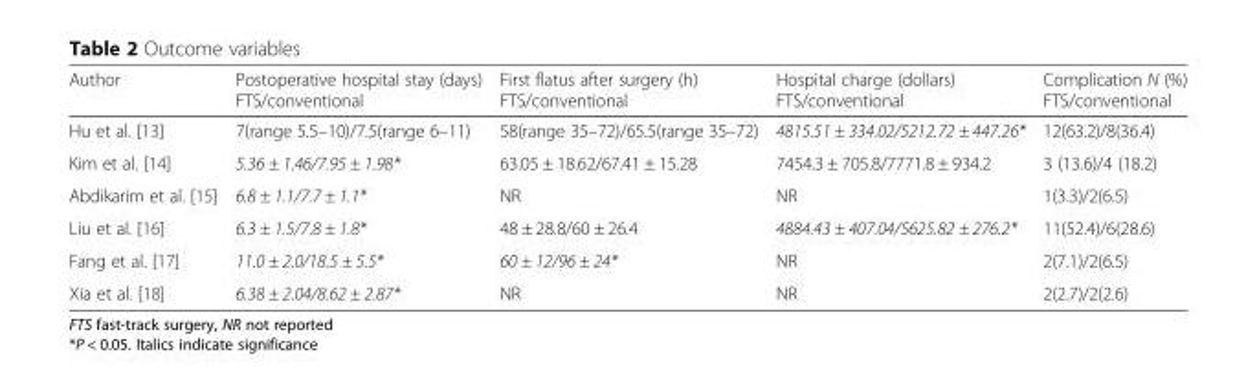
<table><thead><tr><td>Author</td><td>Postoperative hospital stay (days) FTS/conventional</td><td>First flatus after surgery (h) FTS/conventional</td><td>Hospital charge (dollars) FTS/conventional</td><td>Complication N (%) FTS/conventional</td></tr></thead><tbody><tr><td>Hu et al. [13]</td><td>7(range 5.5–10)/7.5(range 6–11)</td><td>58(range 35–72)/65.5(range 35–72)</td><td>4815.51 ± 334.02/5212.72 ± 447.26*</td><td>12(63.2)/8(36.4)</td></tr><tr><td>Kim et al. [14]</td><td>5.36 ± 1.46/7.95 ± 1.98*</td><td>63.05 ± 18.62/67.41 ± 15.28</td><td>7454.3 ± 705.8/7771.8 ± 934.2</td><td>3 (13.6)/4 (18.2)</td></tr><tr><td>Abdikarim et al. [15]</td><td>6.8 ± 1.1/7.7 ± 1.1*</td><td>NR</td><td>NR</td><td>1(3.3)/2(6.5)</td></tr><tr><td>Liu et al. [16]</td><td>6.3 ± 1.5/7.8 ± 1.8*</td><td>48 ± 28.8/60 ± 26.4</td><td>4884.43 ± 407.04/5625.82 ± 276.2*</td><td>11(52.4)/6(28.6)</td></tr><tr><td>Fang et al. [17]</td><td>11.0 ± 2.0/18.5 ± 5.5*</td><td>60 ± 12/96 ± 24*</td><td>NR</td><td>2(7.1)/2(6.5)</td></tr><tr><td>Xia et al. [18]</td><td>6.38 ± 2.04/8.62 ± 2.87*</td><td>NR</td><td>NR</td><td>2(2.7)/2(2.6)</td></tr></tbody></table>